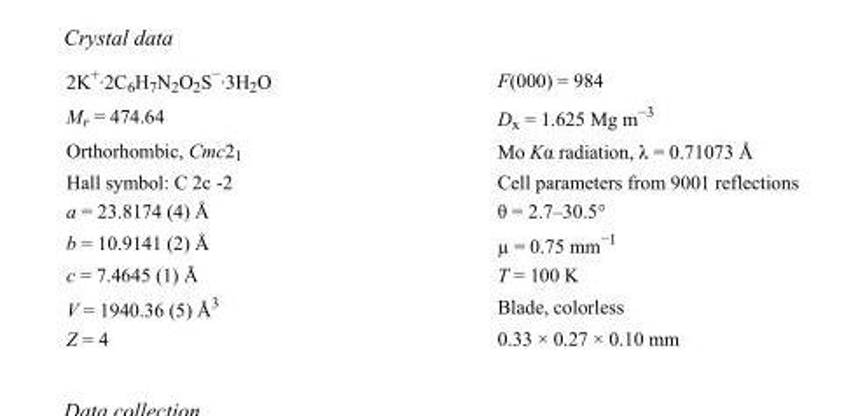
<table><tbody><tr><td>2K<sup>+</sup>·2C<sub>6</sub>H<sub>7</sub>N<sub>2</sub>O<sub>2</sub>S<sup>−</sup>·3H<sub>2</sub>O</td><td>F(000) = 984</td></tr><tr><td>M<sub>r</sub> = 474.64</td><td>D<sub>x</sub> = 1.625 Mg m<sup>−3</sup></td></tr><tr><td>Orthorhombic, Cmc2<sub>1</sub></td><td>Mo Kα radiation, λ = 0.71073 Å</td></tr><tr><td>Hall symbol: C 2c -2</td><td>Cell parameters from 9001 reflections</td></tr><tr><td>a = 23.8174 (4) Å</td><td>θ = 2.7–30.5°</td></tr><tr><td>b = 10.9141 (2) Å</td><td>µ = 0.75 mm<sup>−1</sup></td></tr><tr><td>c = 7.4645 (1) Å</td><td>T = 100 K</td></tr><tr><td>V = 1940.36 (5) Å<sup>3</sup></td><td>Blade, colorless</td></tr><tr><td>Z = 4</td><td>0.33 × 0.27 × 0.10 mm</td></tr></tbody></table>